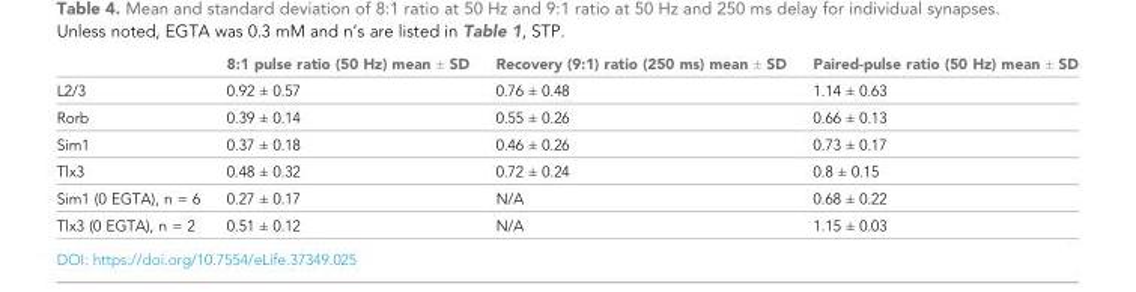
<table><thead><tr><td></td><td>8:1 pulse ratio (50 Hz) mean ± SD</td><td>Recovery (9:1) ratio (250 ms) mean ± SD</td><td>Paired-pulse ratio (50 Hz) mean ± SD</td></tr></thead><tbody><tr><td>L2/3</td><td>0.92 ± 0.57</td><td>0.76 ± 0.48</td><td>1.14 ± 0.63</td></tr><tr><td>Rorb</td><td>0.39 ± 0.14</td><td>0.55 ± 0.26</td><td>0.66 ± 0.13</td></tr><tr><td>Sim1</td><td>0.37 ± 0.18</td><td>0.46 ± 0.26</td><td>0.73 ± 0.17</td></tr><tr><td>Tlx3</td><td>0.48 ± 0.32</td><td>0.72 ± 0.24</td><td>0.8 ± 0.15</td></tr><tr><td>Sim1 (0 EGTA), n = 6</td><td>0.27 ± 0.17</td><td>N/A</td><td>0.68 ± 0.22</td></tr><tr><td>Tlx3 (0 EGTA), n = 2</td><td>0.51 ± 0.12</td><td>N/A</td><td>1.15 ± 0.03</td></tr></tbody></table>